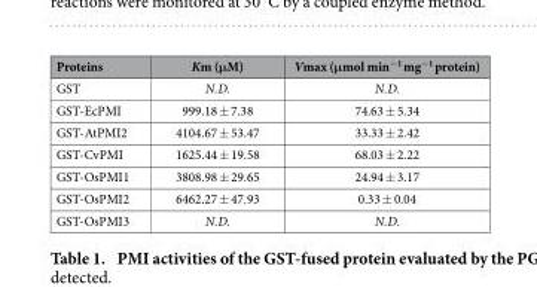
<table><thead><tr><td>Proteins</td><td>Km (μM)</td><td>Vmax (μmol min<sup>−1</sup> mg<sup>−1</sup> protein)</td></tr></thead><tbody><tr><td>GST</td><td>N.D.</td><td>N.D.</td></tr><tr><td>GST-EcPMI</td><td>999.18 ± 7.38</td><td>74.63 ± 5.34</td></tr><tr><td>GST-AtPMI2</td><td>4104.67 ± 53.47</td><td>33.33 ± 2.42</td></tr><tr><td>GST-CvPMI</td><td>1625.44 ± 19.58</td><td>68.03 ± 2.22</td></tr><tr><td>GST-OsPMI1</td><td>3808.98 ± 29.65</td><td>24.94 ± 3.17</td></tr><tr><td>GST-OsPMI2</td><td>6462.27 ± 47.93</td><td>0.33 ± 0.04</td></tr><tr><td>GST-OsPMI3</td><td>N.D.</td><td>N.D.</td></tr></tbody></table>